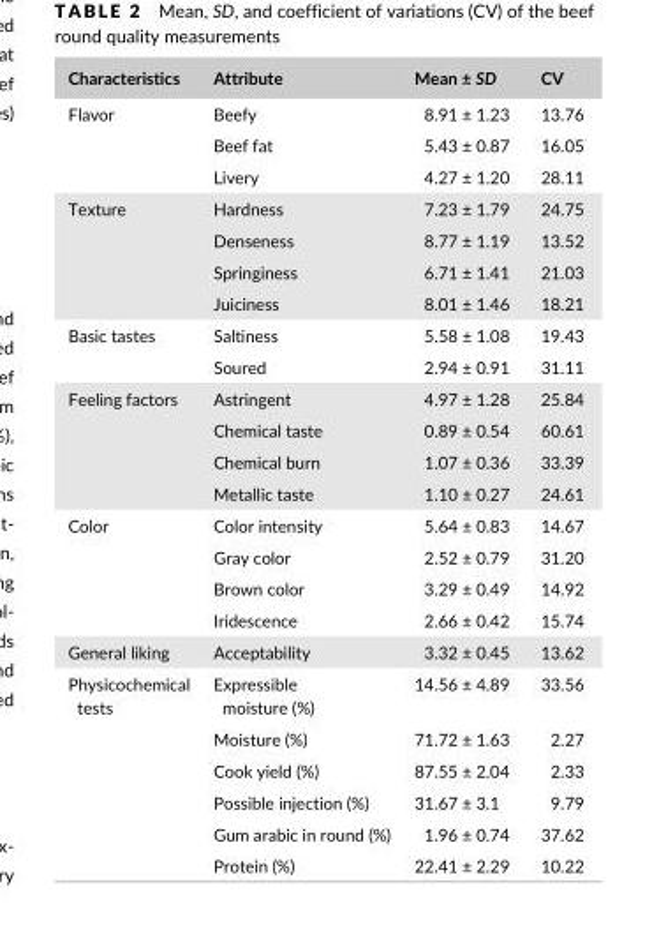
<table><thead><tr><td>Characteristics</td><td>Attribute</td><td>Mean ± SD</td><td>CV</td></tr></thead><tbody><tr><td rowspan="3">Flavor</td><td>Beefy</td><td>8.91 ± 1.23</td><td>13.76</td></tr><tr><td>Beef fat</td><td>5.43 ± 0.87</td><td>16.05</td></tr><tr><td>Livery</td><td>4.27 ± 1.20</td><td>28.11</td></tr><tr><td rowspan="4">Texture</td><td>Hardness</td><td>7.23 ± 1.79</td><td>24.75</td></tr><tr><td>Denseness</td><td>8.77 ± 1.19</td><td>13.52</td></tr><tr><td>Springiness</td><td>6.71 ± 1.41</td><td>21.03</td></tr><tr><td>Juiciness</td><td>8.01 ± 1.46</td><td>18.21</td></tr><tr><td rowspan="2">Basic tastes</td><td>Saltiness</td><td>5.58 ± 1.08</td><td>19.43</td></tr><tr><td>Soured</td><td>2.94 ± 0.91</td><td>31.11</td></tr><tr><td rowspan="4">Feeling factors</td><td>Astringent</td><td>4.97 ± 1.28</td><td>25.84</td></tr><tr><td>Chemical taste</td><td>0.89 ± 0.54</td><td>60.61</td></tr><tr><td>Chemical burn</td><td>1.07 ± 0.36</td><td>33.39</td></tr><tr><td>Metallic taste</td><td>1.10 ± 0.27</td><td>24.61</td></tr><tr><td rowspan="4">Color</td><td>Color intensity</td><td>5.64 ± 0.83</td><td>14.67</td></tr><tr><td>Gray color</td><td>2.52 ± 0.79</td><td>31.20</td></tr><tr><td>Brown color</td><td>3.29 ± 0.49</td><td>14.92</td></tr><tr><td>Iridescence</td><td>2.66 ± 0.42</td><td>15.74</td></tr><tr><td>General liking</td><td>Acceptability</td><td>3.32 ± 0.45</td><td>13.62</td></tr><tr><td rowspan="6">Physicochemical tests</td><td>Expressible moisture (%)</td><td>14.56 ± 4.89</td><td>33.56</td></tr><tr><td>Moisture (%)</td><td>71.72 ± 1.63</td><td>2.27</td></tr><tr><td>Cook yield (%)</td><td>87.55 ± 2.04</td><td>2.33</td></tr><tr><td>Possible injection (%)</td><td>31.67 ± 3.1</td><td>9.79</td></tr><tr><td>Gum arabic in round (%)</td><td>1.96 ± 0.74</td><td>37.62</td></tr><tr><td>Protein (%)</td><td>22.41 ± 2.29</td><td>10.22</td></tr></tbody></table>